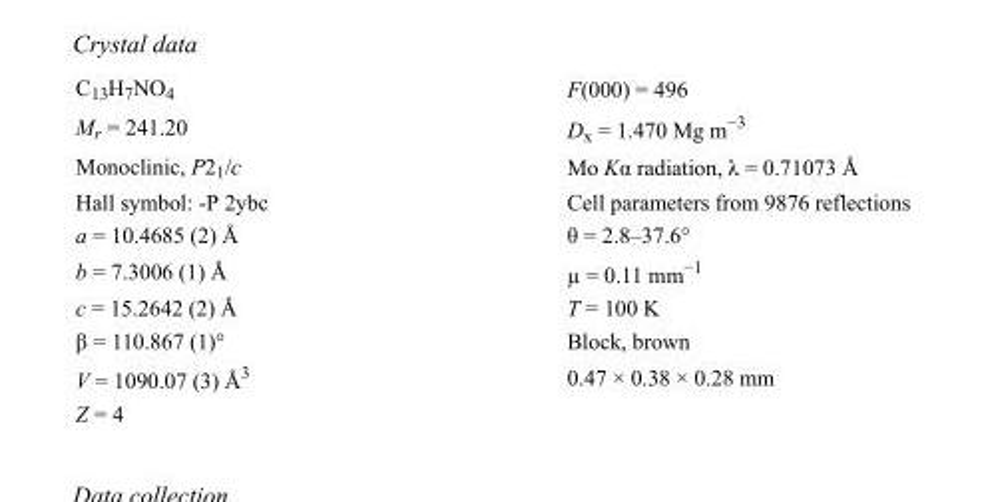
<table><tbody><tr><td>C<sub>13</sub>H<sub>7</sub>NO<sub>4</sub></td><td>F(000) = 496</td></tr><tr><td>M<sub>r</sub> = 241.20</td><td>D<sub>x</sub> = 1.470 Mg m<sup>−3</sup></td></tr><tr><td>Monoclinic, P2<sub>1</sub>/c</td><td>Mo Kα radiation, λ = 0.71073 Å</td></tr><tr><td>Hall symbol: -P 2ybc</td><td>Cell parameters from 9876 reflections</td></tr><tr><td>a = 10.4685 (2) Å</td><td>θ = 2.8–37.6°</td></tr><tr><td>b = 7.3006 (1) Å</td><td>µ = 0.11 mm<sup>−1</sup></td></tr><tr><td>c = 15.2642 (2) Å</td><td>T = 100 K</td></tr><tr><td>β = 110.867 (1)°</td><td>Block, brown</td></tr><tr><td>V = 1090.07 (3) Å<sup>3</sup></td><td>0.47 × 0.38 × 0.28 mm</td></tr><tr><td>Z = 4</td><td></td></tr></tbody></table>